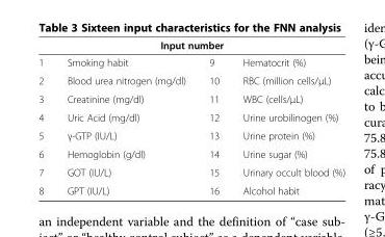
<table><thead><tr><td colspan="4">Input number</td></tr><tr><td>1</td><td>Smoking habit</td><td>9</td><td>Hematocrit (%)</td></tr></thead><tbody><tr><td>2</td><td>Blood urea nitrogen (mg/dl)</td><td>10</td><td>RBC (million cells/μL)</td></tr><tr><td>3</td><td>Creatinine (mg/dl)</td><td>11</td><td>WBC (cells/μL)</td></tr><tr><td>4</td><td>Uric Acid (mg/dl)</td><td>12</td><td>Urine urobilinogen (%)</td></tr><tr><td>5</td><td>γ-GTP (IU/L)</td><td>13</td><td>Urine protein (%)</td></tr><tr><td>6</td><td>Hemoglobin (g/dl)</td><td>14</td><td>Urine sugar (%)</td></tr><tr><td>7</td><td>GOT (IU/L)</td><td>15</td><td>Urinary occult blood (%)</td></tr><tr><td>8</td><td>GPT (IU/L)</td><td>16</td><td>Alcohol habit</td></tr></tbody></table>